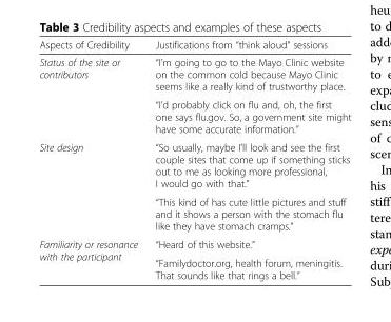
<table><thead><tr><td>Aspects of Credibility</td><td>Justifications from “think aloud” sessions</td></tr></thead><tbody><tr><td rowspan="2">Status of the site or contributors</td><td>“I’m going to go to the Mayo Clinic website on the common cold because Mayo Clinic seems like a really kind of trustworthy place.</td></tr><tr><td>“I’d probably click on flu and, oh, the first one says flu.gov. So, a government site might have some accurate information.”</td></tr><tr><td rowspan="2">Site design</td><td>“So usually, maybe I’ll look and see the first couple sites that come up if something sticks out to me as looking more professional, I would go with that.”</td></tr><tr><td>“This kind of has cute little pictures and stuff and it shows a person with the stomach flu like they have stomach cramps.”</td></tr><tr><td rowspan="2">Familiarity or resonance with the participant</td><td>“Heard of this website.”</td></tr><tr><td>“Familydoctor.org, health forum, meningitis. That sounds like that rings a bell.”</td></tr></tbody></table>